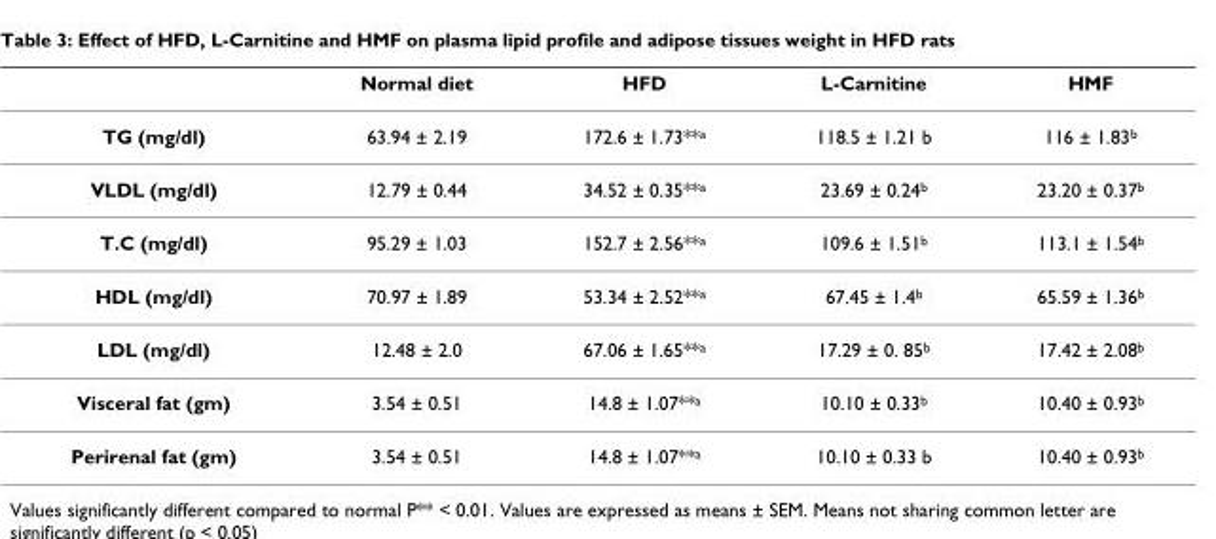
<table><thead><tr><td></td><td>Normal diet</td><td>HFD</td><td>L-Carnitine</td><td>HMF</td></tr></thead><tbody><tr><td>TG (mg/dl)</td><td>63.94 ± 2.19</td><td>172.6 ± 1.73**<sup>a</sup></td><td>118.5 ± 1.21 b</td><td>116 ± 1.83<sup>b</sup></td></tr><tr><td>VLDL (mg/dl)</td><td>12.79 ± 0.44</td><td>34.52 ± 0.35**<sup>a</sup></td><td>23.69 ± 0.24<sup>b</sup></td><td>23.20 ± 0.37<sup>b</sup></td></tr><tr><td>T.C (mg/dl)</td><td>95.29 ± 1.03</td><td>152.7 ± 2.56**<sup>a</sup></td><td>109.6 ± 1.51<sup>b</sup></td><td>113.1 ± 1.54<sup>b</sup></td></tr><tr><td>HDL (mg/dl)</td><td>70.97 ± 1.89</td><td>53.34 ± 2.52**<sup>a</sup></td><td>67.45 ± 1.4<sup>b</sup></td><td>65.59 ± 1.36<sup>b</sup></td></tr><tr><td>LDL (mg/dl)</td><td>12.48 ± 2.0</td><td>67.06 ± 1.65**<sup>a</sup></td><td>17.29 ± 0. 85<sup>b</sup></td><td>17.42 ± 2.08<sup>b</sup></td></tr><tr><td>Visceral fat (gm)</td><td>3.54 ± 0.51</td><td>14.8 ± 1.07**<sup>a</sup></td><td>10.10 ± 0.33<sup>b</sup></td><td>10.40 ± 0.93<sup>b</sup></td></tr><tr><td>Perirenal fat (gm)</td><td>3.54 ± 0.51</td><td>14.8 ± 1.07**<sup>a</sup></td><td>10.10 ± 0.33 b</td><td>10.40 ± 0.93<sup>b</sup></td></tr></tbody></table>